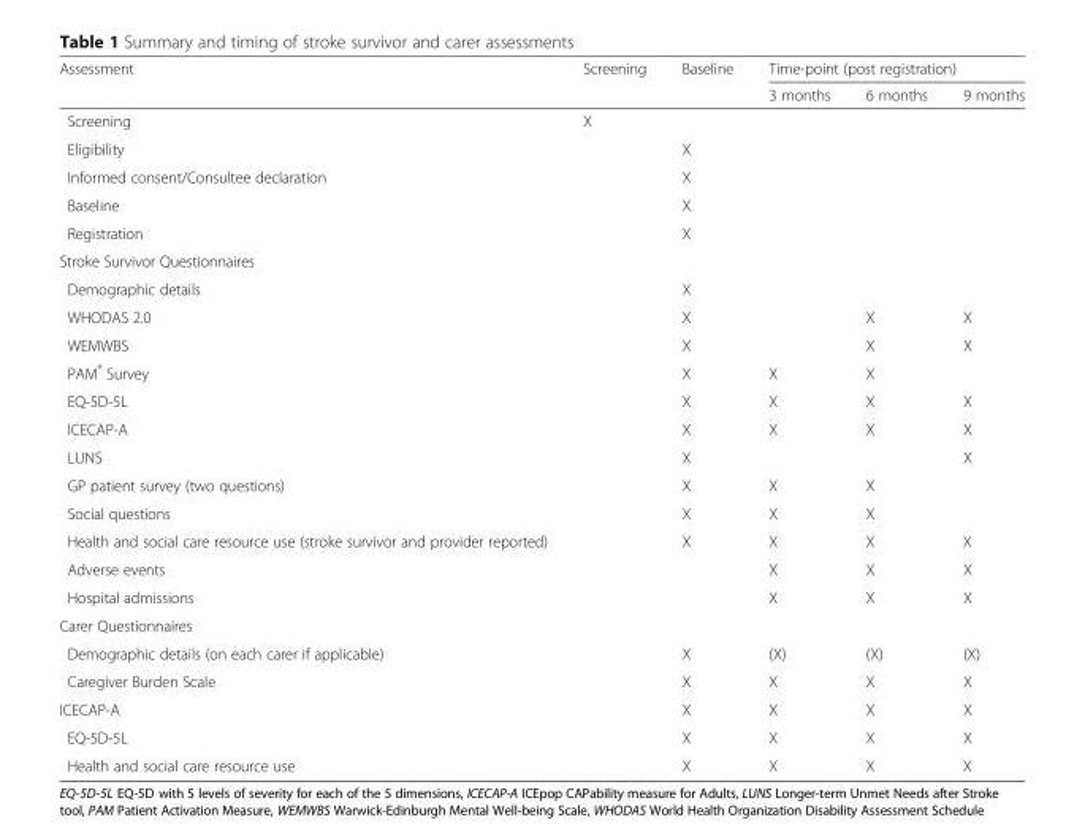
<table><thead><tr><td rowspan="2">Assessment</td><td rowspan="2">Screening</td><td rowspan="2">Baseline</td><td colspan="3">Time-point (post registration)</td></tr><tr><td>3 months</td><td>6 months</td><td>9 months</td></tr></thead><tbody><tr><td>Screening</td><td>X</td><td></td><td></td><td></td><td></td></tr><tr><td>Eligibility</td><td></td><td>X</td><td></td><td></td><td></td></tr><tr><td>Informed consent/Consultee declaration</td><td></td><td>X</td><td></td><td></td><td></td></tr><tr><td>Baseline</td><td></td><td>X</td><td></td><td></td><td></td></tr><tr><td>Registration</td><td></td><td>X</td><td></td><td></td><td></td></tr><tr><td colspan="6">Stroke Survivor Questionnaires</td></tr><tr><td>Demographic details</td><td></td><td>X</td><td></td><td></td><td></td></tr><tr><td>WHODAS 2.0</td><td></td><td>X</td><td></td><td>X</td><td>X</td></tr><tr><td>WEMWBS</td><td></td><td>X</td><td></td><td>X</td><td>X</td></tr><tr><td>PAM<sup>®</sup> Survey</td><td></td><td>X</td><td>X</td><td>X</td><td></td></tr><tr><td>EQ-5D-5L</td><td></td><td>X</td><td>X</td><td>X</td><td>X</td></tr><tr><td>ICECAP-A</td><td></td><td>X</td><td>X</td><td>X</td><td>X</td></tr><tr><td>LUNS</td><td></td><td>X</td><td></td><td></td><td>X</td></tr><tr><td>GP patient survey (two questions)</td><td></td><td>X</td><td>X</td><td>X</td><td></td></tr><tr><td>Social questions</td><td></td><td>X</td><td>X</td><td>X</td><td></td></tr><tr><td>Health and social care resource use (stroke survivor and provider reported)</td><td></td><td>X</td><td>X</td><td>X</td><td>X</td></tr><tr><td>Adverse events</td><td></td><td></td><td>X</td><td>X</td><td>X</td></tr><tr><td>Hospital admissions</td><td></td><td></td><td>X</td><td>X</td><td>X</td></tr><tr><td colspan="6">Carer Questionnaires</td></tr><tr><td>Demographic details (on each carer if applicable)</td><td></td><td>X</td><td>(X)</td><td>(X)</td><td>(X)</td></tr><tr><td>Caregiver Burden Scale</td><td></td><td>X</td><td>X</td><td>X</td><td>X</td></tr><tr><td>ICECAP-A</td><td></td><td>X</td><td>X</td><td>X</td><td>X</td></tr><tr><td>EQ-5D-5L</td><td></td><td>X</td><td>X</td><td>X</td><td>X</td></tr><tr><td>Health and social care resource use</td><td></td><td>X</td><td>X</td><td>X</td><td>X</td></tr></tbody></table>